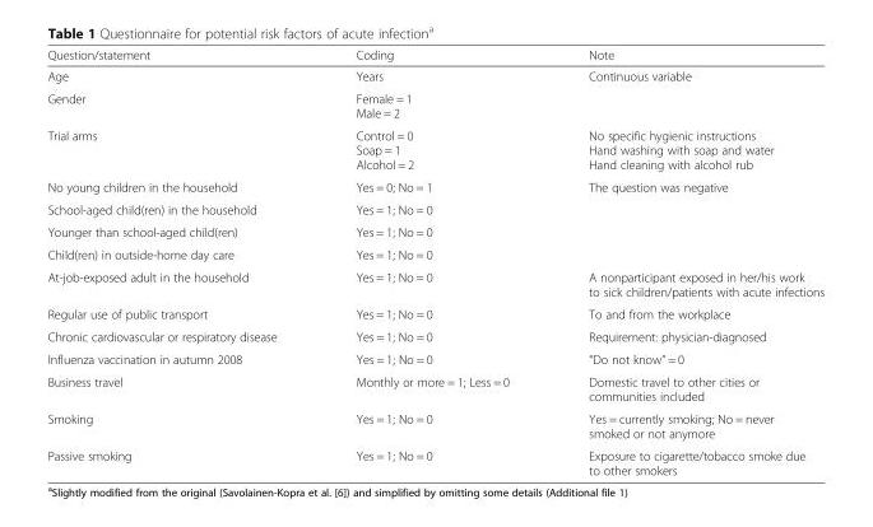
<table><thead><tr><td>Question/statement</td><td>Coding</td><td>Note</td></tr></thead><tbody><tr><td>Age</td><td>Years</td><td>Continuous variable</td></tr><tr><td>Gender</td><td>Female = 1 Male = 2</td><td></td></tr><tr><td>Trial arms</td><td>Control = 0 Soap = 1 Alcohol = 2</td><td>No specific hygienic instructions Hand washing with soap and water Hand cleaning with alcohol rub</td></tr><tr><td>No young children in the household</td><td>Yes = 0; No = 1</td><td>The question was negative</td></tr><tr><td>School-aged child(ren) in the household</td><td>Yes = 1; No = 0</td><td></td></tr><tr><td>Younger than school-aged child(ren)</td><td>Yes = 1; No = 0</td><td></td></tr><tr><td>Child(ren) in outside-home day care</td><td>Yes = 1; No = 0</td><td></td></tr><tr><td>At-job-exposed adult in the household</td><td>Yes = 1; No = 0</td><td>A nonparticipant exposed in her/his work to sick children/patients with acute infections</td></tr><tr><td>Regular use of public transport</td><td>Yes = 1; No = 0</td><td>To and from the workplace</td></tr><tr><td>Chronic cardiovascular or respiratory disease</td><td>Yes = 1; No = 0</td><td>Requirement: physician-diagnosed</td></tr><tr><td>Influenza vaccination in autumn 2008</td><td>Yes = 1; No = 0</td><td>“Do not know” = 0</td></tr><tr><td>Business travel</td><td>Monthly or more = 1; Less = 0</td><td>Domestic travel to other cities or communities included</td></tr><tr><td>Smoking</td><td>Yes = 1; No = 0</td><td>Yes = currently smoking; No = never smoked or not anymore</td></tr><tr><td>Passive smoking</td><td>Yes = 1; No = 0</td><td>Exposure to cigarette/tobacco smoke due to other smokers</td></tr></tbody></table>